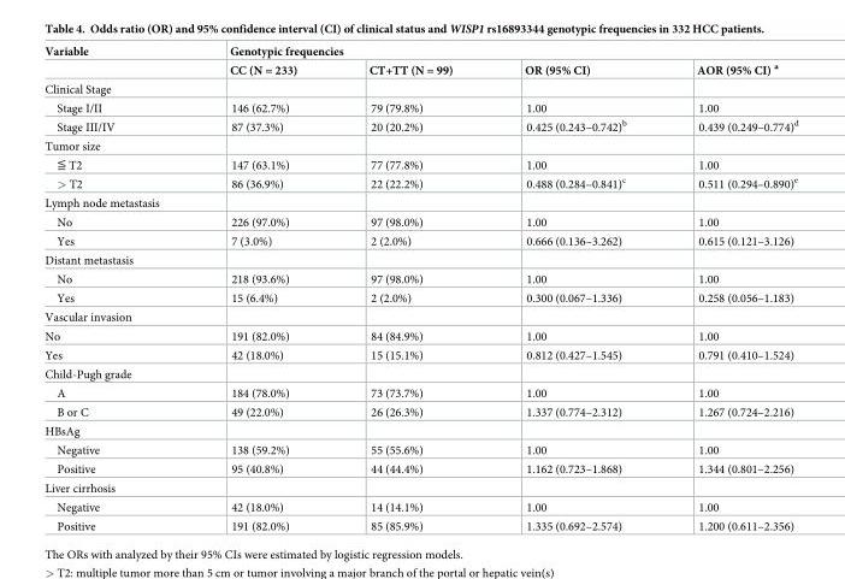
<table><thead><tr><td rowspan="2">Variable</td><td colspan="4">Genotypic frequencies</td></tr><tr><td>CC (N = 233)</td><td>CT+TT (N = 99)</td><td>OR (95% CI)</td><td>AOR (95% CI) <sup>a</sup></td></tr></thead><tbody><tr><td colspan="5">Clinical Stage</td></tr><tr><td>Stage I/II</td><td>146 (62.7%)</td><td>79 (79.8%)</td><td>1.00</td><td>1.00</td></tr><tr><td>Stage III/IV</td><td>87 (37.3%)</td><td>20 (20.2%)</td><td>0.425 (0.243–0.742)<sup>b</sup></td><td>0.439 (0.249–0.774)<sup>d</sup></td></tr><tr><td colspan="5">Tumor size</td></tr><tr><td>≦ T2</td><td>147 (63.1%)</td><td>77 (77.8%)</td><td>1.00</td><td>1.00</td></tr><tr><td>&gt; T2</td><td>86 (36.9%)</td><td>22 (22.2%)</td><td>0.488 (0.284–0.841)<sup>c</sup></td><td>0.511 (0.294–0.890)<sup>e</sup></td></tr><tr><td colspan="5">Lymph node metastasis</td></tr><tr><td>No</td><td>226 (97.0%)</td><td>97 (98.0%)</td><td>1.00</td><td>1.00</td></tr><tr><td>Yes</td><td>7 (3.0%)</td><td>2 (2.0%)</td><td>0.666 (0.136–3.262)</td><td>0.615 (0.121–3.126)</td></tr><tr><td colspan="5">Distant metastasis</td></tr><tr><td>No</td><td>218 (93.6%)</td><td>97 (98.0%)</td><td>1.00</td><td>1.00</td></tr><tr><td>Yes</td><td>15 (6.4%)</td><td>2 (2.0%)</td><td>0.300 (0.067–1.336)</td><td>0.258 (0.056–1.183)</td></tr><tr><td colspan="5">Vascular invasion</td></tr><tr><td>No</td><td>191 (82.0%)</td><td>84 (84.9%)</td><td>1.00</td><td>1.00</td></tr><tr><td>Yes</td><td>42 (18.0%)</td><td>15 (15.1%)</td><td>0.812 (0.427–1.545)</td><td>0.791 (0.410–1.524)</td></tr><tr><td colspan="5">Child-Pugh grade</td></tr><tr><td>A</td><td>184 (78.0%)</td><td>73 (73.7%)</td><td>1.00</td><td>1.00</td></tr><tr><td>B or C</td><td>49 (22.0%)</td><td>26 (26.3%)</td><td>1.337 (0.774–2.312)</td><td>1.267 (0.724–2.216)</td></tr><tr><td colspan="5">HBsAg</td></tr><tr><td>Negative</td><td>138 (59.2%)</td><td>55 (55.6%)</td><td>1.00</td><td>1.00</td></tr><tr><td>Positive</td><td>95 (40.8%)</td><td>44 (44.4%)</td><td>1.162 (0.723–1.868)</td><td>1.344 (0.801–2.256)</td></tr><tr><td colspan="5">Liver cirrhosis</td></tr><tr><td>Negative</td><td>42 (18.0%)</td><td>14 (14.1%)</td><td>1.00</td><td>1.00</td></tr><tr><td>Positive</td><td>191 (82.0%)</td><td>85 (85.9%)</td><td>1.335 (0.692–2.574)</td><td>1.200 (0.611–2.356)</td></tr></tbody></table>